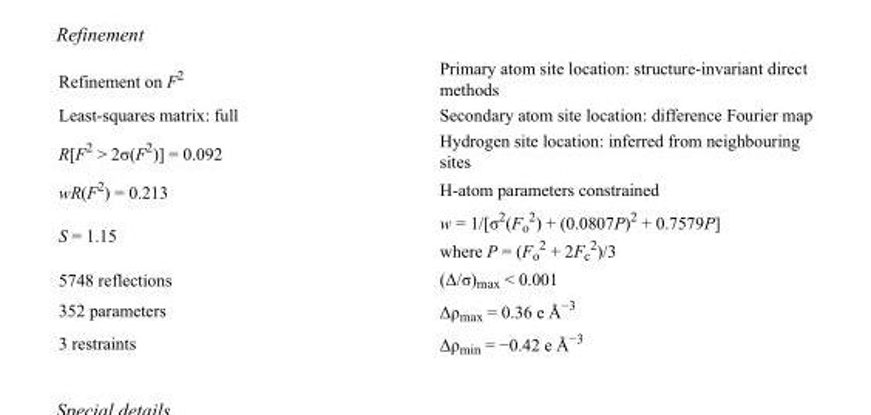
<table><tbody><tr><td>Refinement on F<sup>2</sup></td><td>Primary atom site location: structure-invariant direct methods</td></tr><tr><td>Least-squares matrix: full</td><td>Secondary atom site location: difference Fourier map</td></tr><tr><td>R[F<sup>2</sup> &gt; 2σ(F<sup>2</sup>)] = 0.092</td><td>Hydrogen site location: inferred from neighbouring sites</td></tr><tr><td>wR(F<sup>2</sup>) = 0.213</td><td>H-atom parameters constrained</td></tr><tr><td>S = 1.15</td><td>w = 1/[σ<sup>2</sup>(F<sub>o</sub> <sup>2</sup>) + (0.0807P)<sup>2</sup> + 0.7579P] where P = (F<sub>o</sub> <sup>2</sup> + 2F<sub>c</sub> <sup>2</sup>)/3</td></tr><tr><td>5748 reflections</td><td>(Δ/σ)<sub>max</sub> &lt; 0.001</td></tr><tr><td>352 parameters</td><td>Δρ<sub>max</sub> = 0.36 e Å<sup>−3</sup></td></tr><tr><td>3 restraints</td><td>Δρ<sub>min</sub> = −0.42 e Å<sup>−3</sup></td></tr></tbody></table>